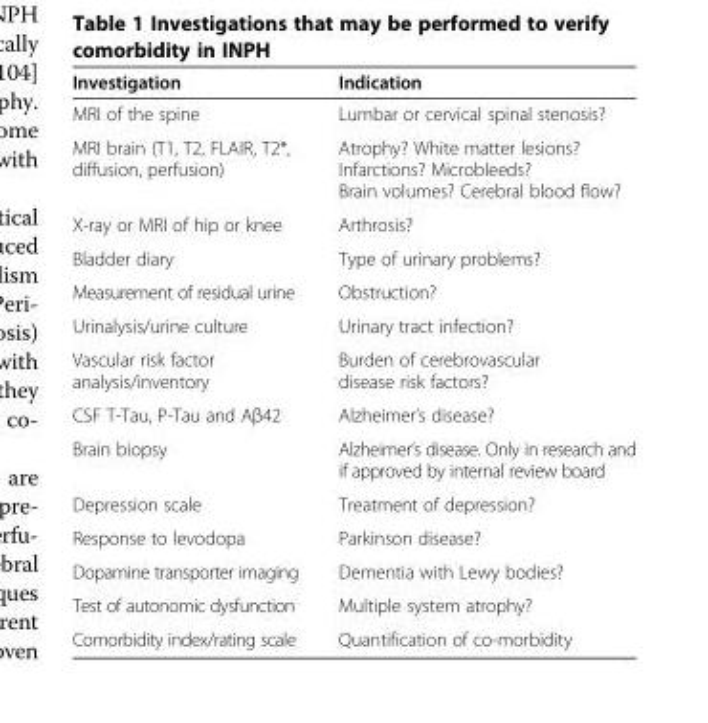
<table><thead><tr><td>Investigation</td><td>Indication</td></tr></thead><tbody><tr><td>MRI of the spine</td><td>Lumbar or cervical spinal stenosis?</td></tr><tr><td>MRI brain (T1, T2, FLAIR, T2*, diffusion, perfusion)</td><td>Atrophy? White matter lesions? Infarctions? Microbleeds? Brain volumes? Cerebral blood flow?</td></tr><tr><td>X-ray or MRI of hip or knee</td><td>Arthrosis?</td></tr><tr><td>Bladder diary</td><td>Type of urinary problems?</td></tr><tr><td>Measurement of residual urine</td><td>Obstruction?</td></tr><tr><td>Urinalysis/urine culture</td><td>Urinary tract infection?</td></tr><tr><td>Vascular risk factor analysis/inventory</td><td>Burden of cerebrovascular disease risk factors?</td></tr><tr><td>CSF T-Tau, P-Tau and Aβ42</td><td>Alzheimer’s disease?</td></tr><tr><td>Brain biopsy</td><td>Alzheimer’s disease. Only in research and if approved by internal review board</td></tr><tr><td>Depression scale</td><td>Treatment of depression?</td></tr><tr><td>Response to levodopa</td><td>Parkinson disease?</td></tr><tr><td>Dopamine transporter imaging</td><td>Dementia with Lewy bodies?</td></tr><tr><td>Test of autonomic dysfunction</td><td>Multiple system atrophy?</td></tr><tr><td>Comorbidity index/rating scale</td><td>Quantification of co-morbidity</td></tr></tbody></table>